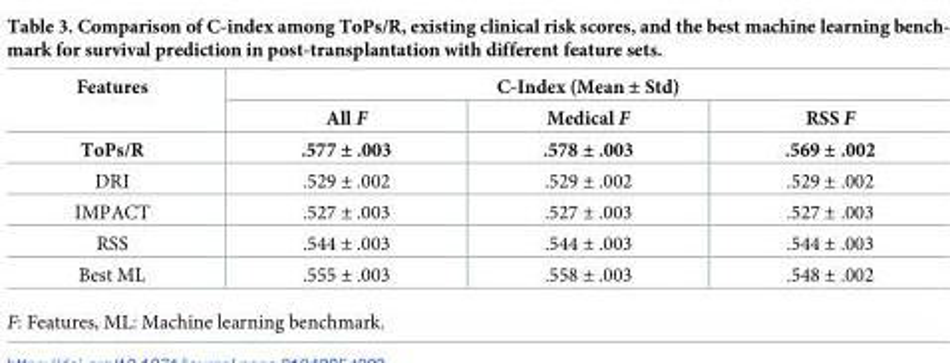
<table><thead><tr><td rowspan="2">Features</td><td colspan="3">C-Index (Mean ± Std)</td></tr><tr><td>All F</td><td>Medical F</td><td>RSS F</td></tr></thead><tbody><tr><td>ToPs/R</td><td>.577 ± .003</td><td>.578 ± .003</td><td>.569 ± .002</td></tr><tr><td>DRI</td><td>.529 ± .002</td><td>.529 ± .002</td><td>.529 ± .002</td></tr><tr><td>IMPACT</td><td>.527 ± .003</td><td>.527 ± .003</td><td>.527 ± .003</td></tr><tr><td>RSS</td><td>.544 ± .003</td><td>.544 ± .003</td><td>.544 ± .003</td></tr><tr><td>Best ML</td><td>.555 ± .003</td><td>.558 ± .003</td><td>.548 ± .002</td></tr></tbody></table>